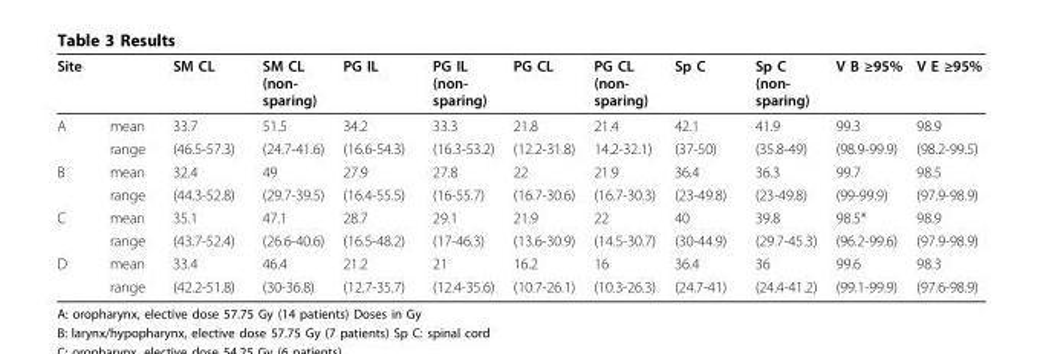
<table><thead><tr><td>Site</td><td></td><td>SM CL</td><td>SM CL (non- sparing)</td><td>PG IL</td><td>PG IL (non- sparing)</td><td>PG CL</td><td>PG CL (non- sparing)</td><td>Sp C</td><td>Sp C (non- sparing)</td><td>V B ≥95%</td><td>V E ≥95%</td></tr></thead><tbody><tr><td rowspan="2">A</td><td>mean</td><td>33.7</td><td>51.5</td><td>34.2</td><td>33.3</td><td>21.8</td><td>21.4</td><td>42.1</td><td>41.9</td><td>99.3</td><td>98.9</td></tr><tr><td>range</td><td>(46.5-57.3)</td><td>(24.7-41.6)</td><td>(16.6-54.3)</td><td>(16.3-53.2)</td><td>(12.2-31.8)</td><td>14.2-32.1)</td><td>(37-50)</td><td>(35.8-49)</td><td>(98.9-99.9)</td><td>(98.2-99.5)</td></tr><tr><td rowspan="2">B</td><td>mean</td><td>32.4</td><td>49</td><td>27.9</td><td>27.8</td><td>22</td><td>21.9</td><td>36.4</td><td>36.3</td><td>99.7</td><td>98.5</td></tr><tr><td>range</td><td>(44.3-52.8)</td><td>(29.7-39.5)</td><td>(16.4-55.5)</td><td>(16-55.7)</td><td>(16.7-30.6)</td><td>(16.7-30.3)</td><td>(23-49.8)</td><td>(23-49.8)</td><td>(99-99.9)</td><td>(97.9-98.9)</td></tr><tr><td rowspan="2">C</td><td>mean</td><td>35.1</td><td>47.1</td><td>28.7</td><td>29.1</td><td>21.9</td><td>22</td><td>40</td><td>39.8</td><td>98.5*</td><td>98.9</td></tr><tr><td>range</td><td>(43.7-52.4)</td><td>(26.6-40.6)</td><td>(16.5-48.2)</td><td>(17-46.3)</td><td>(13.6-30.9)</td><td>(14.5-30.7)</td><td>(30-44.9)</td><td>(29.7-45.3)</td><td>(96.2-99.6)</td><td>(97.9-98.9)</td></tr><tr><td rowspan="2">D</td><td>mean</td><td>33.4</td><td>46.4</td><td>21.2</td><td>21</td><td>16.2</td><td>16</td><td>36.4</td><td>36</td><td>99.6</td><td>98.3</td></tr><tr><td>range</td><td>(42.2-51.8)</td><td>(30-36.8)</td><td>(12.7-35.7)</td><td>(12.4-35.6)</td><td>(10.7-26.1)</td><td>(10.3-26.3)</td><td>(24.7-41)</td><td>(24.4-41.2)</td><td>(99.1-99.9)</td><td>(97.6-98.9)</td></tr></tbody></table>